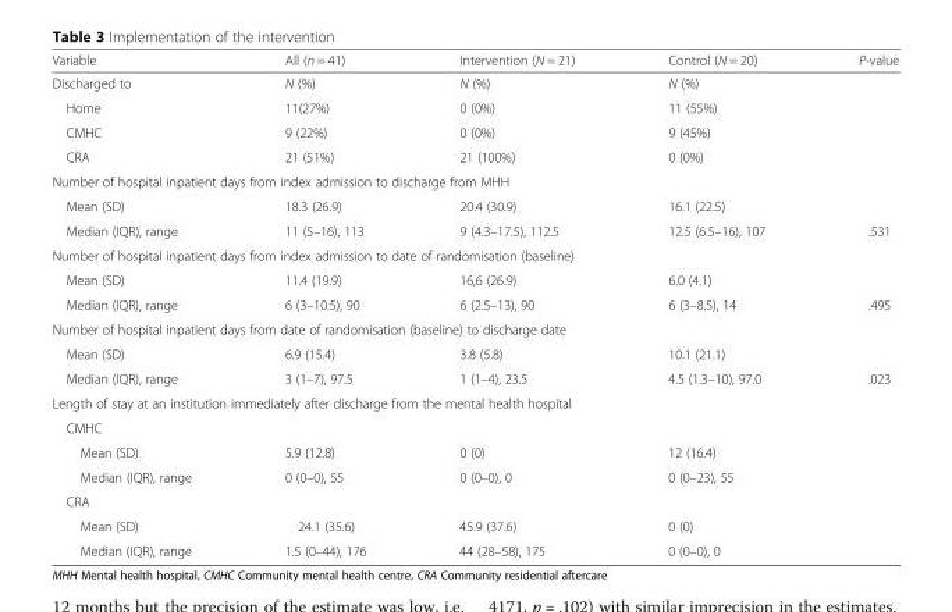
<table><thead><tr><td>Variable</td><td>All (n = 41)</td><td>Intervention (N = 21)</td><td>Control (N = 20)</td><td>P-value</td></tr></thead><tbody><tr><td>Discharged to</td><td>N (%)</td><td>N (%)</td><td>N (%)</td><td></td></tr><tr><td>Home</td><td>11(27%)</td><td>0 (0%)</td><td>11 (55%)</td><td></td></tr><tr><td>CMHC</td><td>9 (22%)</td><td>0 (0%)</td><td>9 (45%)</td><td></td></tr><tr><td>CRA</td><td>21 (51%)</td><td>21 (100%)</td><td>0 (0%)</td><td></td></tr><tr><td colspan="5">Number of hospital inpatient days from index admission to discharge from MHH</td></tr><tr><td>Mean (SD)</td><td>18.3 (26.9)</td><td>20.4 (30.9)</td><td>16.1 (22.5)</td><td></td></tr><tr><td>Median (IQR), range</td><td>11 (5–16), 113</td><td>9 (4.3–17.5), 112.5</td><td>12.5 (6.5–16), 107</td><td>.531</td></tr><tr><td colspan="5">Number of hospital inpatient days from index admission to date of randomisation (baseline)</td></tr><tr><td>Mean (SD)</td><td>11.4 (19.9)</td><td>16,6 (26.9)</td><td>6.0 (4.1)</td><td></td></tr><tr><td>Median (IQR), range</td><td>6 (3–10.5), 90</td><td>6 (2.5–13), 90</td><td>6 (3–8.5), 14</td><td>.495</td></tr><tr><td colspan="5">Number of hospital inpatient days from date of randomisation (baseline) to discharge date</td></tr><tr><td>Mean (SD)</td><td>6.9 (15.4)</td><td>3.8 (5.8)</td><td>10.1 (21.1)</td><td></td></tr><tr><td>Median (IQR), range</td><td>3 (1–7), 97.5</td><td>1 (1–4), 23.5</td><td>4.5 (1.3–10), 97.0</td><td>.023</td></tr><tr><td colspan="5">Length of stay at an institution immediately after discharge from the mental health hospital</td></tr><tr><td colspan="5">CMHC</td></tr><tr><td>Mean (SD)</td><td>5.9 (12.8)</td><td>0 (0)</td><td>12 (16.4)</td><td></td></tr><tr><td>Median (IQR), range</td><td>0 (0–0), 55</td><td>0 (0–0), 0</td><td>0 (0–23), 55</td><td></td></tr><tr><td colspan="5">CRA</td></tr><tr><td>Mean (SD)</td><td>24.1 (35.6)</td><td>45.9 (37.6)</td><td>0 (0)</td><td></td></tr><tr><td>Median (IQR), range</td><td>1.5 (0–44), 176</td><td>44 (28–58), 175</td><td>0 (0–0), 0</td><td></td></tr></tbody></table>